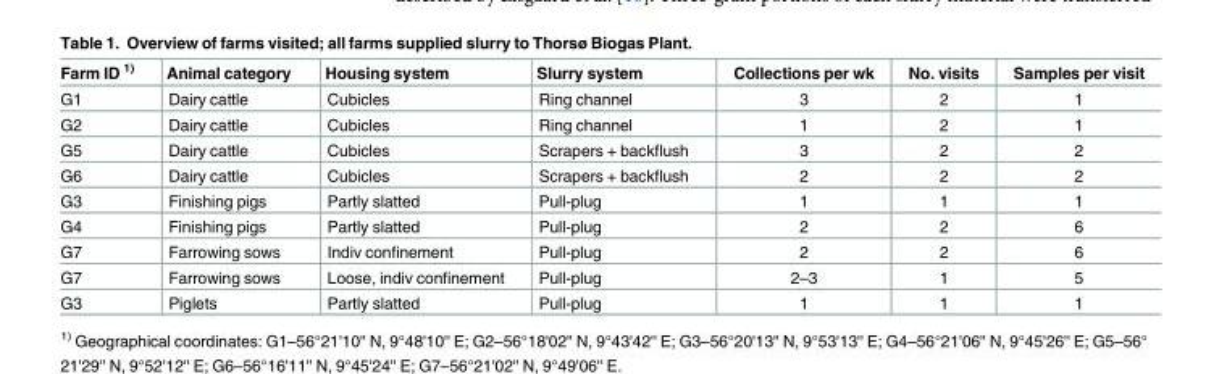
<table><thead><tr><td>Farm ID <sup>1)</sup></td><td>Animal category</td><td>Housing system</td><td>Slurry system</td><td>Collections per wk</td><td>No. visits</td><td>Samples per visit</td></tr></thead><tbody><tr><td>G1</td><td>Dairy cattle</td><td>Cubicles</td><td>Ring channel</td><td>3</td><td>2</td><td>1</td></tr><tr><td>G2</td><td>Dairy cattle</td><td>Cubicles</td><td>Ring channel</td><td>1</td><td>2</td><td>1</td></tr><tr><td>G5</td><td>Dairy cattle</td><td>Cubicles</td><td>Scrapers + backflush</td><td>3</td><td>2</td><td>2</td></tr><tr><td>G6</td><td>Dairy cattle</td><td>Cubicles</td><td>Scrapers + backflush</td><td>2</td><td>2</td><td>2</td></tr><tr><td>G3</td><td>Finishing pigs</td><td>Partly slatted</td><td>Pull-plug</td><td>1</td><td>1</td><td>1</td></tr><tr><td>G4</td><td>Finishing pigs</td><td>Partly slatted</td><td>Pull-plug</td><td>2</td><td>2</td><td>6</td></tr><tr><td>G7</td><td>Farrowing sows</td><td>Indiv confinement</td><td>Pull-plug</td><td>2</td><td>2</td><td>6</td></tr><tr><td>G7</td><td>Farrowing sows</td><td>Loose, indiv confinement</td><td>Pull-plug</td><td>2–3</td><td>1</td><td>5</td></tr><tr><td>G3</td><td>Piglets</td><td>Partly slatted</td><td>Pull-plug</td><td>1</td><td>1</td><td>1</td></tr></tbody></table>